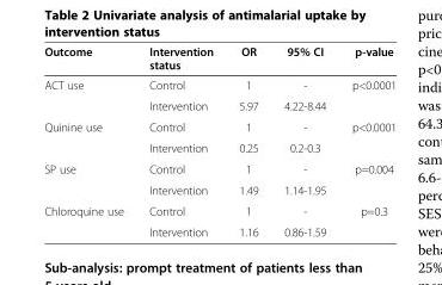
<table><thead><tr><td>Outcome</td><td>Intervention status</td><td>OR</td><td>95% CI</td><td>p-value</td></tr></thead><tbody><tr><td rowspan="2">ACT use</td><td>Control</td><td>1</td><td>-</td><td rowspan="2">p&lt;0.0001</td></tr><tr><td>Intervention</td><td>5.97</td><td>4.22-8.44</td></tr><tr><td rowspan="2">Quinine use</td><td>Control</td><td>1</td><td>-</td><td rowspan="2">p&lt;0.0001</td></tr><tr><td>Intervention</td><td>0.25</td><td>0.2-0.3</td></tr><tr><td rowspan="2">SP use</td><td>Control</td><td>1</td><td>-</td><td rowspan="2">p=0.004</td></tr><tr><td>Intervention</td><td>1.49</td><td>1.14-1.95</td></tr><tr><td rowspan="2">Chloroquine use</td><td>Control</td><td>1</td><td>-</td><td>p=0.3</td></tr><tr><td>Intervention</td><td>1.16</td><td>0.86-1.59</td><td></td></tr></tbody></table>